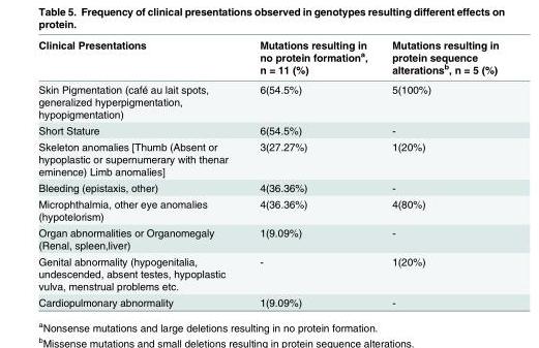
<table><thead><tr><td>Clinical Presentations</td><td>Mutations resulting in no protein formation<sup>a</sup>, n = 11 (%)</td><td>Mutations resulting in protein sequence alterations<sup>b</sup>, n = 5 (%)</td></tr></thead><tbody><tr><td>Skin Pigmentation (café au lait spots, generalized hyperpigmentation, hypopigmentation)</td><td>6(54.5%)</td><td>5(100%)</td></tr><tr><td>Short Stature</td><td>6(54.5%)</td><td>-</td></tr><tr><td>Skeleton anomalies [Thumb (Absent or hypoplastic or supernumerary with thenar eminence) Limb anomalies]</td><td>3(27.27%)</td><td>1(20%)</td></tr><tr><td>Bleeding (epistaxis, other)</td><td>4(36.36%)</td><td>-</td></tr><tr><td>Microphthalmia, other eye anomalies (hypotelorism)</td><td>4(36.36%)</td><td>4(80%)</td></tr><tr><td>Organ abnormalities or Organomegaly (Renal, spleen,liver)</td><td>1(9.09%)</td><td>-</td></tr><tr><td>Genital abnormality (hypogenitalia, undescended, absent testes, hypoplastic vulva, menstrual problems etc.</td><td>-</td><td>1(20%)</td></tr><tr><td>Cardiopulmonary abnormality</td><td>1(9.09%)</td><td>-</td></tr></tbody></table>